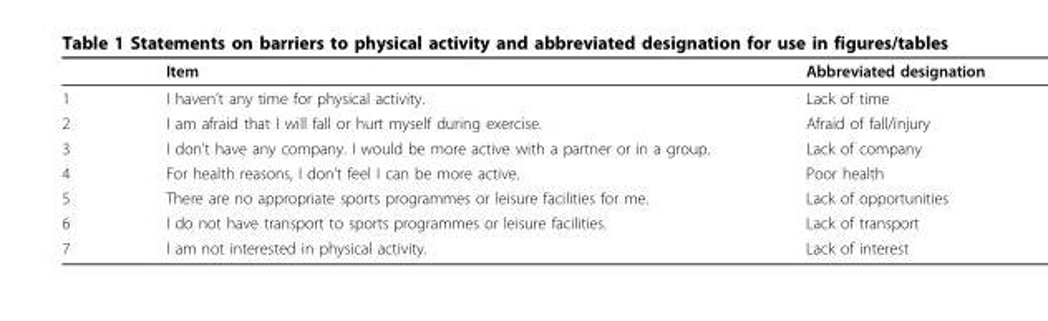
<table><thead><tr><td></td><td>Item</td><td>Abbreviated designation</td></tr></thead><tbody><tr><td>1</td><td>I haven’t any time for physical activity.</td><td>Lack of time</td></tr><tr><td>2</td><td>I am afraid that I will fall or hurt myself during exercise.</td><td>Afraid of fall/injury</td></tr><tr><td>3</td><td>I don’t have any company. I would be more active with a partner or in a group.</td><td>Lack of company</td></tr><tr><td>4</td><td>For health reasons, I don’t feel I can be more active.</td><td>Poor health</td></tr><tr><td>5</td><td>There are no appropriate sports programmes or leisure facilities for me.</td><td>Lack of opportunities</td></tr><tr><td>6</td><td>I do not have transport to sports programmes or leisure facilities.</td><td>Lack of transport</td></tr><tr><td>7</td><td>I am not interested in physical activity.</td><td>Lack of interest</td></tr></tbody></table>